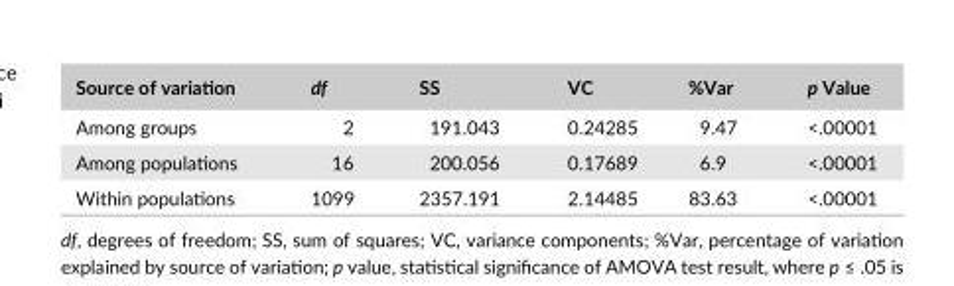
<table><thead><tr><td>Source of variation</td><td>df</td><td>SS</td><td>VC</td><td>%Var</td><td>p Value</td></tr></thead><tbody><tr><td>Among groups</td><td>2</td><td>191.043</td><td>0.24285</td><td>9.47</td><td>&lt;.00001</td></tr><tr><td>Among populations</td><td>16</td><td>200.056</td><td>0.17689</td><td>6.9</td><td>&lt;.00001</td></tr><tr><td>Within populations</td><td>1099</td><td>2357.191</td><td>2.14485</td><td>83.63</td><td>&lt;.00001</td></tr></tbody></table>